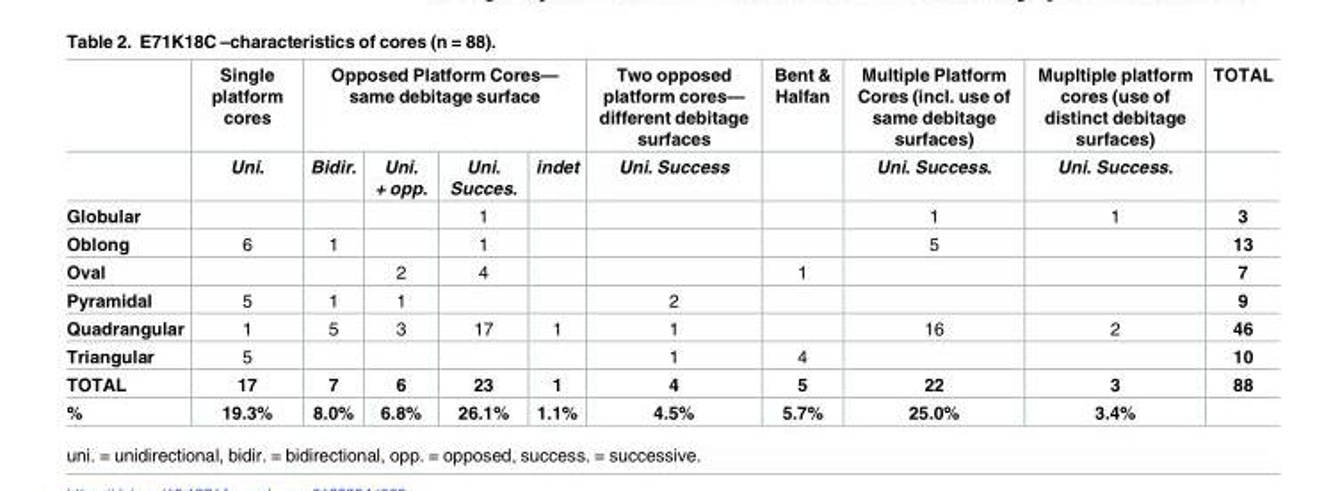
<table><thead><tr><td rowspan="2"></td><td rowspan="2">Single platform cores Uni.</td><td colspan="4">Opposed Platform Cores— same debitage surface</td><td rowspan="2">Two opposed platform cores— different debitage surfaces Uni. Success</td><td rowspan="2">Bent &amp; Halfan</td><td rowspan="2">Multiple Platform Cores (incl. use of same debitage surfaces) Uni. Success.</td><td rowspan="2">Mupltiple platform cores (use of distinct debitage surfaces) Uni. Success.</td><td rowspan="2">TOTAL</td></tr><tr><td>Bidir.</td><td>Uni. + opp.</td><td>Uni. Succes.</td><td>indet</td></tr></thead><tbody><tr><td>Globular</td><td></td><td></td><td></td><td>1</td><td></td><td></td><td></td><td>1</td><td>1</td><td>3</td></tr><tr><td>Oblong</td><td>6</td><td>1</td><td></td><td>1</td><td></td><td></td><td></td><td>5</td><td></td><td>13</td></tr><tr><td>Oval</td><td></td><td></td><td>2</td><td>4</td><td></td><td></td><td>1</td><td></td><td></td><td>7</td></tr><tr><td>Pyramidal</td><td>5</td><td>1</td><td>1</td><td></td><td></td><td>2</td><td></td><td></td><td></td><td>9</td></tr><tr><td>Quadrangular</td><td>1</td><td>5</td><td>3</td><td>17</td><td>1</td><td>1</td><td></td><td>16</td><td>2</td><td>46</td></tr><tr><td>Triangular</td><td>5</td><td></td><td></td><td></td><td></td><td>1</td><td>4</td><td></td><td></td><td>10</td></tr><tr><td>TOTAL</td><td>17</td><td>7</td><td>6</td><td>23</td><td>1</td><td>4</td><td>5</td><td>22</td><td>3</td><td>88</td></tr><tr><td>%</td><td>19.3%</td><td>8.0%</td><td>6.8%</td><td>26.1%</td><td>1.1%</td><td>4.5%</td><td>5.7%</td><td>25.0%</td><td>3.4%</td><td></td></tr></tbody></table>